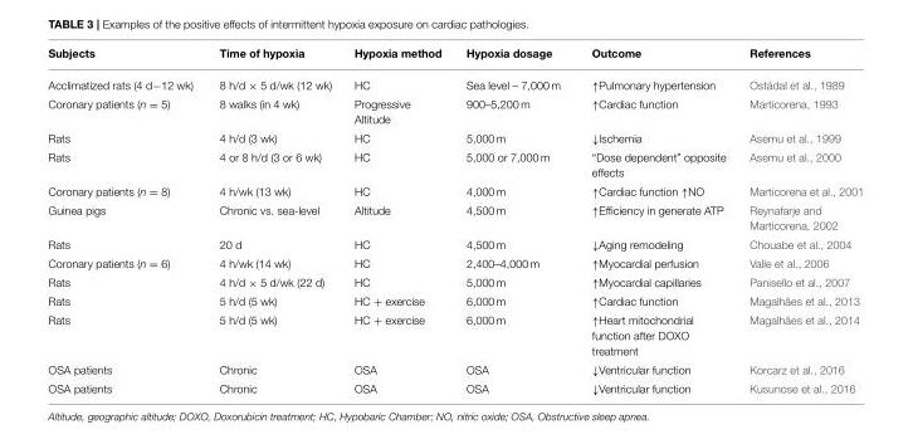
<table><thead><tr><td>Subjects</td><td>Time of hypoxia</td><td>Hypoxia method</td><td>Hypoxia dosage</td><td>Outcome</td><td>References</td></tr></thead><tbody><tr><td>Acclimatized rats (4 d−12 wk)</td><td>8 h/d × 5 d/wk (12 wk)</td><td>HC</td><td>Sea level – 7,000 m</td><td>↑Pulmonary hypertension</td><td>Ostádal et al., 1989</td></tr><tr><td>Coronary patients (n = 5)</td><td>8 walks (in 4 wk)</td><td>Progressive Altitude</td><td>900–5,200 m</td><td>↑Cardiac function</td><td>Marticorena, 1993</td></tr><tr><td>Rats</td><td>4 h/d (3 wk)</td><td>HC</td><td>5,000 m</td><td>↓Ischemia</td><td>Asemu et al., 1999</td></tr><tr><td>Rats</td><td>4 or 8 h/d (3 or 6 wk)</td><td>HC</td><td>5,000 or 7,000 m</td><td>“Dose dependent” opposite effects</td><td>Asemu et al., 2000</td></tr><tr><td>Coronary patients (n = 8)</td><td>4 h/wk (13 wk)</td><td>HC</td><td>4,000 m</td><td>↑Cardiac function ↑NO</td><td>Marticorena et al., 2001</td></tr><tr><td>Guinea pigs</td><td>Chronic vs. sea-level</td><td>Altitude</td><td>4,500 m</td><td>↑Efficiency in generate ATP</td><td>Reynafarje and Marticorena, 2002</td></tr><tr><td>Rats</td><td>20 d</td><td>HC</td><td>4,500 m</td><td>↓Aging remodeling</td><td>Chouabe et al., 2004</td></tr><tr><td>Coronary patients (n = 6)</td><td>4 h/wk (14 wk)</td><td>HC</td><td>2,400–4,000 m</td><td>↑Myocardial perfusion</td><td>Valle et al., 2006</td></tr><tr><td>Rats</td><td>4 h/d × 5 d/wk (22 d)</td><td>HC</td><td>5,000 m</td><td>↑Myocardial capillaries</td><td>Panisello et al., 2007</td></tr><tr><td>Rats</td><td>5 h/d (5 wk)</td><td>HC + exercise</td><td>6,000 m</td><td>↑Cardiac function</td><td>Magalhães et al., 2013</td></tr><tr><td>Rats</td><td>5 h/d (5 wk)</td><td>HC + exercise</td><td>6,000 m</td><td>↑Heart mitochondrial function after DOXO treatment</td><td>Magalhães et al., 2014</td></tr><tr><td>OSA patients</td><td>Chronic</td><td>OSA</td><td>OSA</td><td>↓Ventricular function</td><td>Korcarz et al., 2016</td></tr><tr><td>OSA patients</td><td>Chronic</td><td>OSA</td><td>OSA</td><td>↓Ventricular function</td><td>Kusunose et al., 2016</td></tr></tbody></table>